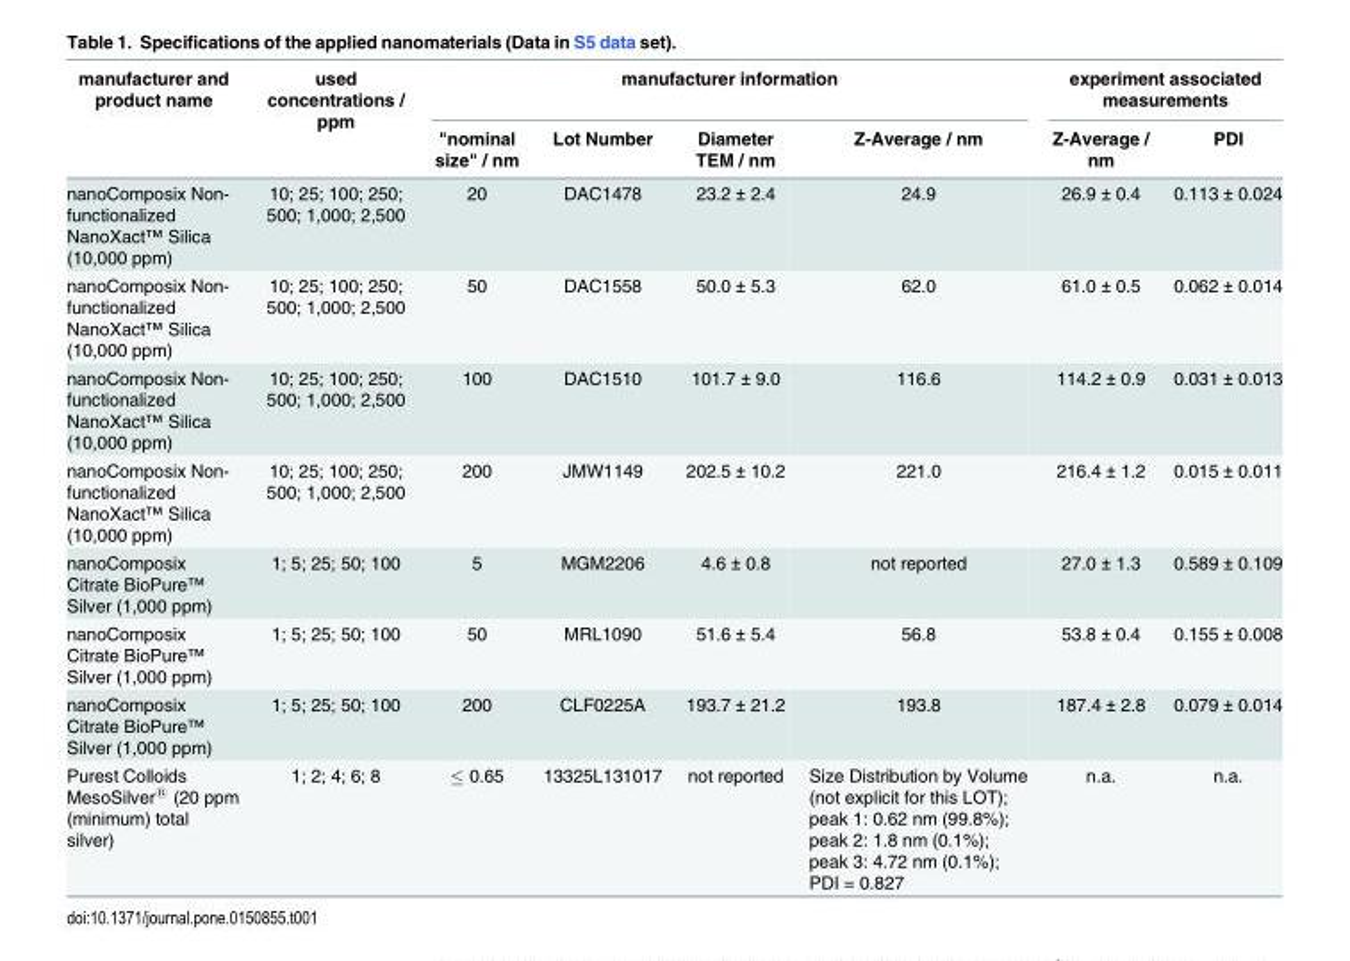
<table><thead><tr><td rowspan="2">manufacturer and product name</td><td rowspan="2">used concentrations / ppm</td><td colspan="4">manufacturer information</td><td colspan="2">experiment associated measurements</td></tr><tr><td>&quot;nominal size&quot; / nm</td><td>Lot Number</td><td>Diameter TEM / nm</td><td>Z-Average / nm</td><td>Z-Average / nm</td><td>PDI</td></tr></thead><tbody><tr><td>nanoComposix Non- functionalized NanoXact™ Silica (10,000 ppm)</td><td>10; 25; 100; 250; 500; 1,000; 2,500</td><td>20</td><td>DAC1478</td><td>23.2 ± 2.4</td><td>24.9</td><td>26.9 ± 0.4</td><td>0.113 ± 0.024</td></tr><tr><td>nanoComposix Non- functionalized NanoXact™ Silica (10,000 ppm)</td><td>10; 25; 100; 250; 500; 1,000; 2,500</td><td>50</td><td>DAC1558</td><td>50.0 ± 5.3</td><td>62.0</td><td>61.0 ± 0.5</td><td>0.062 ± 0.014</td></tr><tr><td>nanoComposix Non- functionalized NanoXact™ Silica (10,000 ppm)</td><td>10; 25; 100; 250; 500; 1,000; 2,500</td><td>100</td><td>DAC1510</td><td>101.7 ± 9.0</td><td>116.6</td><td>114.2 ± 0.9</td><td>0.031 ± 0.013</td></tr><tr><td>nanoComposix Non- functionalized NanoXact™ Silica (10,000 ppm)</td><td>10; 25; 100; 250; 500; 1,000; 2,500</td><td>200</td><td>JMW1149</td><td>202.5 ± 10.2</td><td>221.0</td><td>216.4 ± 1.2</td><td>0.015 ± 0.011</td></tr><tr><td>nanoComposix Citrate BioPure™ Silver (1,000 ppm)</td><td>1; 5; 25; 50; 100</td><td>5</td><td>MGM2206</td><td>4.6 ± 0.8</td><td>not reported</td><td>27.0 ± 1.3</td><td>0.589 ± 0.109</td></tr><tr><td>nanoComposix Citrate BioPure™ Silver (1,000 ppm)</td><td>1; 5; 25; 50; 100</td><td>50</td><td>MRL1090</td><td>51.6 ± 5.4</td><td>56.8</td><td>53.8 ± 0.4</td><td>0.155 ± 0.008</td></tr><tr><td>nanoComposix Citrate BioPure™ Silver (1,000 ppm)</td><td>1; 5; 25; 50; 100</td><td>200</td><td>CLF0225A</td><td>193.7 ± 21.2</td><td>193.8</td><td>187.4 ± 2.8</td><td>0.079 ± 0.014</td></tr><tr><td>Purest Colloids MesoSilver<sup>®</sup> (20 ppm (minimum) total silver)</td><td>1; 2; 4; 6; 8</td><td>≤ 0.65</td><td>13325L131017</td><td>not reported</td><td>Size Distribution by Volume (not explicit for this LOT); peak 1: 0.62 nm (99.8%); peak 2: 1.8 nm (0.1%); peak 3: 4.72 nm (0.1%); PDI = 0.827</td><td>n.a.</td><td>n.a.</td></tr></tbody></table>